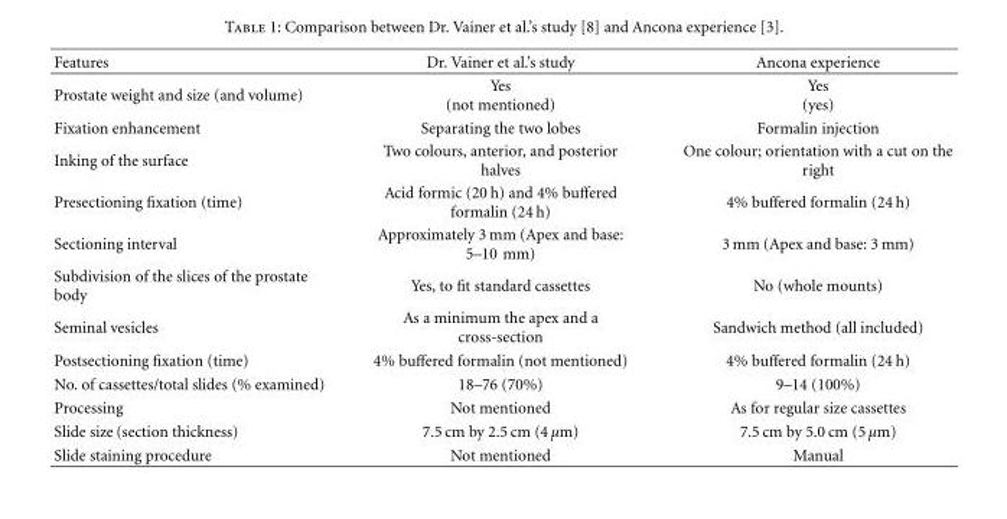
<table><thead><tr><td>Features</td><td>Dr. Vainer et al.’s study</td><td>Ancona experience</td></tr></thead><tbody><tr><td>Prostate weight and size (and volume)</td><td>Yes (not mentioned)</td><td>Yes (yes)</td></tr><tr><td>Fixation enhancement</td><td>Separating the two lobes</td><td>Formalin injection</td></tr><tr><td>Inking of the surface</td><td>Two colours, anterior, and posterior halves</td><td>One colour; orientation with a cut on the right</td></tr><tr><td>Presectioning fixation (time)</td><td>Acid formic (20 h) and 4% buffered formalin (24 h)</td><td>4% buffered formalin (24 h)</td></tr><tr><td>Sectioning interval</td><td>Approximately 3 mm (Apex and base: 5–10 mm)</td><td>3 mm (Apex and base: 3 mm)</td></tr><tr><td>Subdivision of the slices of the prostate body</td><td>Yes, to fit standard cassettes</td><td>No (whole mounts)</td></tr><tr><td>Seminal vesicles</td><td>As a minimum the apex and a cross-section</td><td>Sandwich method (all included)</td></tr><tr><td>Postsectioning fixation (time)</td><td>4% buffered formalin (not mentioned)</td><td>4% buffered formalin (24 h)</td></tr><tr><td>No. of cassettes/total slides (% examined)</td><td>18–76 (70%)</td><td>9–14 (100%)</td></tr><tr><td>Processing</td><td>Not mentioned</td><td>As for regular size cassettes</td></tr><tr><td>Slide size (section thickness)</td><td>7.5 cm by 2.5 cm (4 µm)</td><td>7.5 cm by 5.0 cm (5 µm)</td></tr><tr><td>Slide staining procedure</td><td>Not mentioned</td><td>Manual</td></tr></tbody></table>